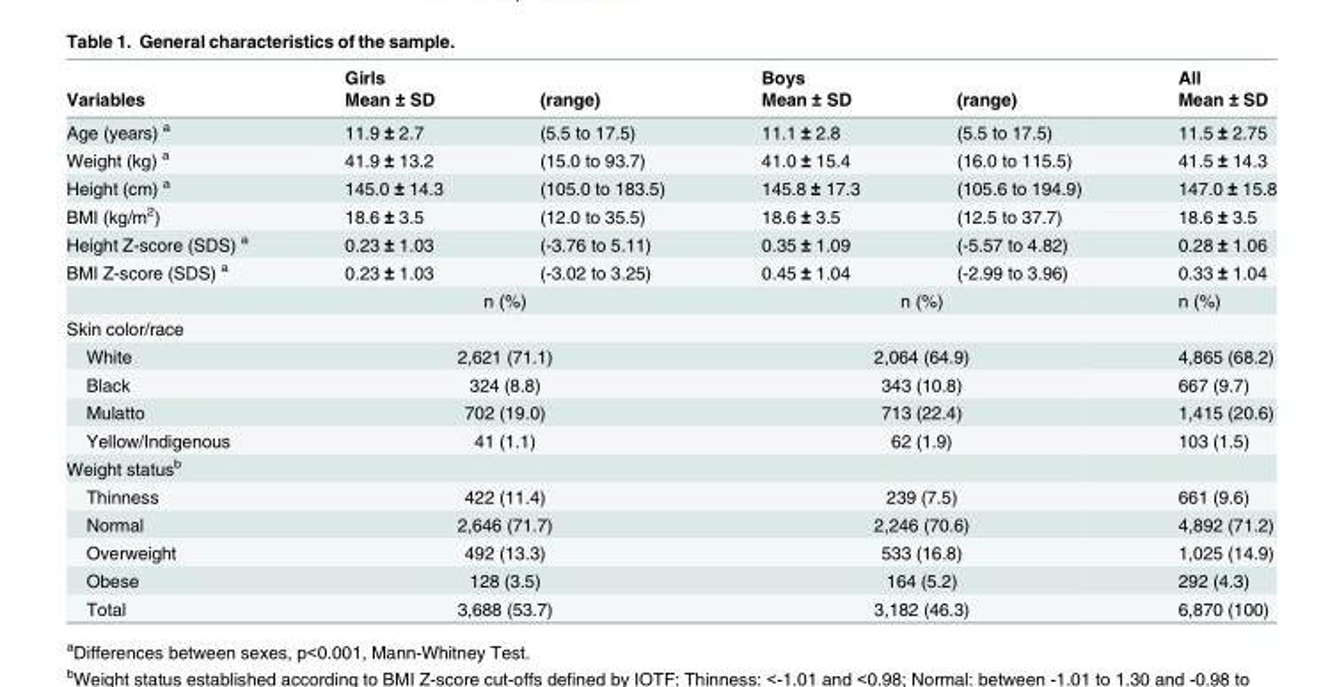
<table><thead><tr><td rowspan="2">Variables</td><td rowspan="2">Girls Mean ± SD</td><td rowspan="2">(range)</td><td rowspan="2">Boys Mean ± SD</td><td rowspan="2">(range)</td><td rowspan="2">All Mean ± SD</td></tr><tr></tr></thead><tbody><tr><td>Age (years) <sup>a</sup></td><td>11.9 ± 2.7</td><td>(5.5 to 17.5)</td><td>11.1 ± 2.8</td><td>(5.5 to 17.5)</td><td>11.5 ± 2.75</td></tr><tr><td>Weight (kg) <sup>a</sup></td><td>41.9 ± 13.2</td><td>(15.0 to 93.7)</td><td>41.0 ± 15.4</td><td>(16.0 to 115.5)</td><td>41.5 ± 14.3</td></tr><tr><td>Height (cm) <sup>a</sup></td><td>145.0 ± 14.3</td><td>(105.0 to 183.5)</td><td>145.8 ± 17.3</td><td>(105.6 to 194.9)</td><td>147.0 ± 15.8</td></tr><tr><td>BMI (kg/m<sup>2</sup>)</td><td>18.6 ± 3.5</td><td>(12.0 to 35.5)</td><td>18.6 ± 3.5</td><td>(12.5 to 37.7)</td><td>18.6 ± 3.5</td></tr><tr><td>Height Z-score (SDS) <sup>a</sup></td><td>0.23 ± 1.03</td><td>(-3.76 to 5.11)</td><td>0.35 ± 1.09</td><td>(-5.57 to 4.82)</td><td>0.28 ± 1.06</td></tr><tr><td rowspan="2">BMI Z-score (SDS) <sup>a</sup></td><td>0.23 ± 1.03</td><td>(-3.02 to 3.25)</td><td>0.45 ± 1.04</td><td>(-2.99 to 3.96)</td><td>0.33 ± 1.04</td></tr><tr><td colspan="2">n (%)</td><td colspan="2">n (%)</td><td>n (%)</td></tr><tr><td colspan="6">Skin color/race</td></tr><tr><td>White</td><td colspan="2">2,621 (71.1)</td><td colspan="2">2,064 (64.9)</td><td>4,865 (68.2)</td></tr><tr><td>Black</td><td colspan="2">324 (8.8)</td><td colspan="2">343 (10.8)</td><td>667 (9.7)</td></tr><tr><td>Mulatto</td><td colspan="2">702 (19.0)</td><td colspan="2">713 (22.4)</td><td>1,415 (20.6)</td></tr><tr><td>Yellow/Indigenous</td><td colspan="2">41 (1.1)</td><td colspan="2">62 (1.9)</td><td>103 (1.5)</td></tr><tr><td colspan="6">Weight status<sup>b</sup></td></tr><tr><td>Thinness</td><td colspan="2">422 (11.4)</td><td colspan="2">239 (7.5)</td><td>661 (9.6)</td></tr><tr><td>Normal</td><td colspan="2">2,646 (71.7)</td><td colspan="2">2,246 (70.6)</td><td>4,892 (71.2)</td></tr><tr><td>Overweight</td><td colspan="2">492 (13.3)</td><td colspan="2">533 (16.8)</td><td>1,025 (14.9)</td></tr><tr><td>Obese</td><td colspan="2">128 (3.5)</td><td colspan="2">164 (5.2)</td><td>292 (4.3)</td></tr><tr><td>Total</td><td colspan="2">3,688 (53.7)</td><td colspan="2">3,182 (46.3)</td><td>6,870 (100)</td></tr></tbody></table>